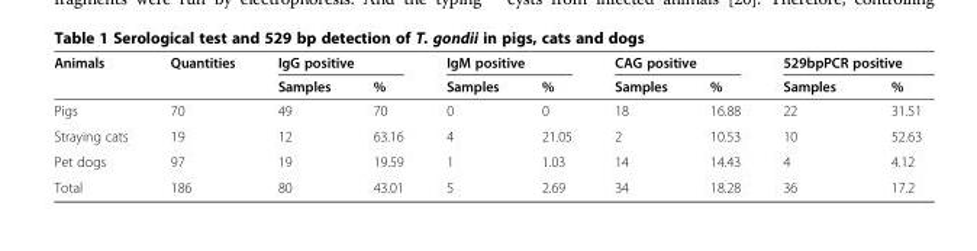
<table><thead><tr><td rowspan="2">Animals</td><td rowspan="2">Quantities</td><td colspan="2">IgG positive</td><td colspan="2">IgM positive</td><td colspan="2">CAG positive</td><td colspan="2">529bpPCR positive</td></tr><tr><td>Samples</td><td>%</td><td>Samples</td><td>%</td><td>Samples</td><td>%</td><td>Samples</td><td>%</td></tr></thead><tbody><tr><td>Pigs</td><td>70</td><td>49</td><td>70</td><td>0</td><td>0</td><td>18</td><td>16.88</td><td>22</td><td>31.51</td></tr><tr><td>Straying cats</td><td>19</td><td>12</td><td>63.16</td><td>4</td><td>21.05</td><td>2</td><td>10.53</td><td>10</td><td>52.63</td></tr><tr><td>Pet dogs</td><td>97</td><td>19</td><td>19.59</td><td>1</td><td>1.03</td><td>14</td><td>14.43</td><td>4</td><td>4.12</td></tr><tr><td>Total</td><td>186</td><td>80</td><td>43.01</td><td>5</td><td>2.69</td><td>34</td><td>18.28</td><td>36</td><td>17.2</td></tr></tbody></table>